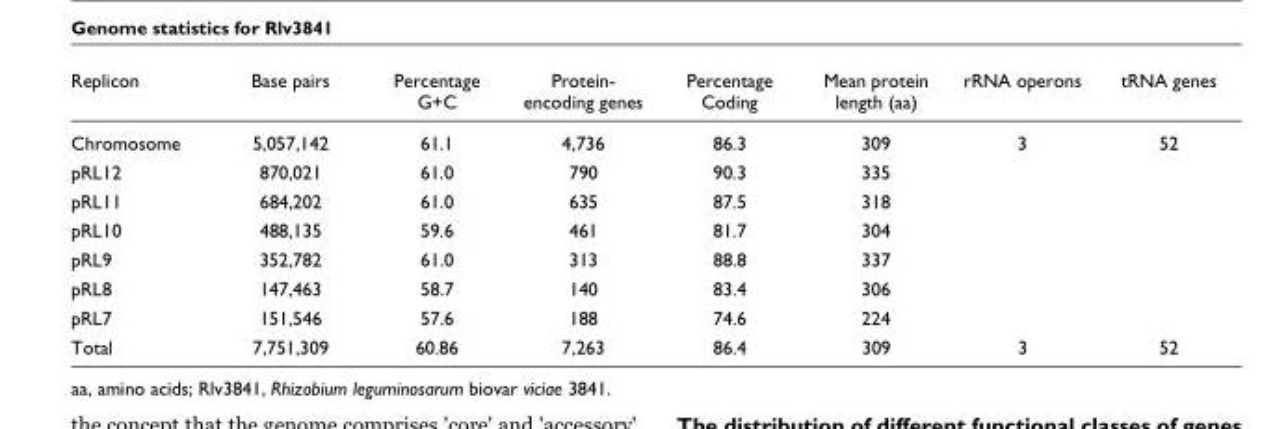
<table><thead><tr><td>Replicon</td><td>Base pairs</td><td>Percentage G+C</td><td>Protein- encoding genes</td><td>Percentage Coding</td><td>Mean protein length (aa)</td><td>rRNA operons</td><td>tRNA genes</td></tr></thead><tbody><tr><td>Chromosome</td><td>5,057,142</td><td>61.1</td><td>4,736</td><td>86.3</td><td>309</td><td>3</td><td>52</td></tr><tr><td>pRL12</td><td>870,021</td><td>61.0</td><td>790</td><td>90.3</td><td>335</td><td></td><td></td></tr><tr><td>pRL11</td><td>684,202</td><td>61.0</td><td>635</td><td>87.5</td><td>318</td><td></td><td></td></tr><tr><td>pRL10</td><td>488,135</td><td>59.6</td><td>461</td><td>81.7</td><td>304</td><td></td><td></td></tr><tr><td>pRL9</td><td>352,782</td><td>61.0</td><td>313</td><td>88.8</td><td>337</td><td></td><td></td></tr><tr><td>pRL8</td><td>147,463</td><td>58.7</td><td>140</td><td>83.4</td><td>306</td><td></td><td></td></tr><tr><td>pRL7</td><td>151,546</td><td>57.6</td><td>188</td><td>74.6</td><td>224</td><td></td><td></td></tr><tr><td>Total</td><td>7,751,309</td><td>60.86</td><td>7,263</td><td>86.4</td><td>309</td><td>3</td><td>52</td></tr></tbody></table>